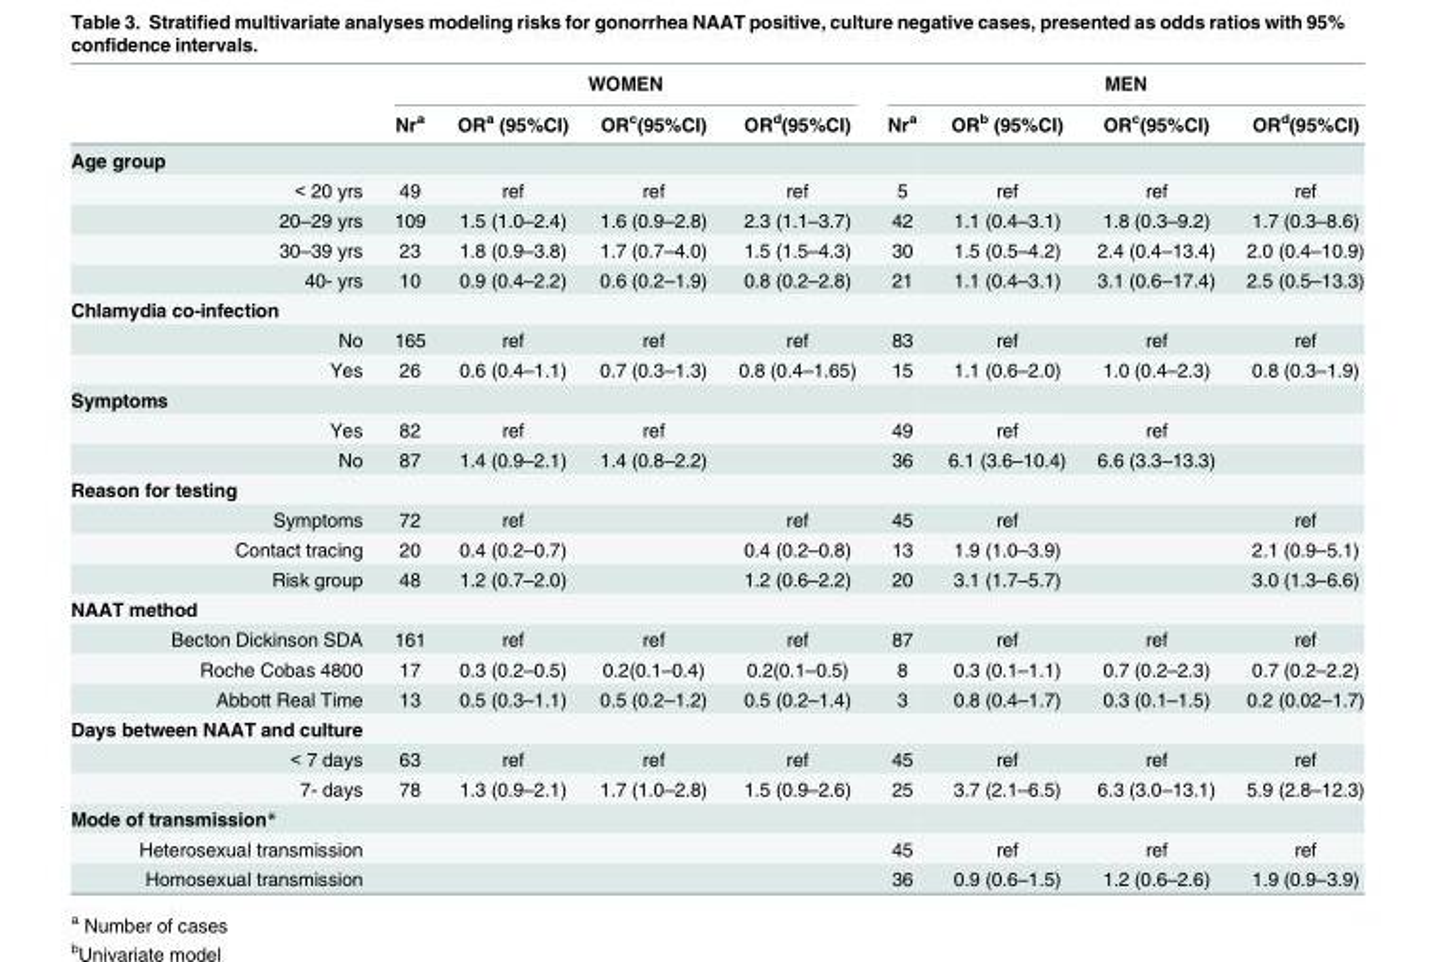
<table><thead><tr><td rowspan="2"></td><td colspan="4">WOMEN</td><td colspan="4">MEN</td></tr><tr><td>Nr<sup>a</sup></td><td>OR<sup>a</sup> (95%CI)</td><td>OR<sup>c</sup>(95%CI)</td><td>OR<sup>d</sup>(95%CI)</td><td>Nr<sup>a</sup></td><td>OR<sup>b</sup> (95%CI)</td><td>OR<sup>c</sup>(95%CI)</td><td>OR<sup>d</sup>(95%CI)</td></tr></thead><tbody><tr><td colspan="9">Age group</td></tr><tr><td>&lt; 20 yrs</td><td>49</td><td>ref</td><td>ref</td><td>ref</td><td>5</td><td>ref</td><td>ref</td><td>ref</td></tr><tr><td>20–29 yrs</td><td>109</td><td>1.5 (1.0–2.4)</td><td>1.6 (0.9–2.8)</td><td>2.3 (1.1–3.7)</td><td>42</td><td>1.1 (0.4–3.1)</td><td>1.8 (0.3–9.2)</td><td>1.7 (0.3–8.6)</td></tr><tr><td>30–39 yrs</td><td>23</td><td>1.8 (0.9–3.8)</td><td>1.7 (0.7–4.0)</td><td>1.5 (1.5–4.3)</td><td>30</td><td>1.5 (0.5–4.2)</td><td>2.4 (0.4–13.4)</td><td>2.0 (0.4–10.9)</td></tr><tr><td>40- yrs</td><td>10</td><td>0.9 (0.4–2.2)</td><td>0.6 (0.2–1.9)</td><td>0.8 (0.2–2.8)</td><td>21</td><td>1.1 (0.4–3.1)</td><td>3.1 (0.6–17.4)</td><td>2.5 (0.5–13.3)</td></tr><tr><td colspan="9">Chlamydia co-infection</td></tr><tr><td>No</td><td>165</td><td>ref</td><td>ref</td><td>ref</td><td>83</td><td>ref</td><td>ref</td><td>ref</td></tr><tr><td>Yes</td><td>26</td><td>0.6 (0.4–1.1)</td><td>0.7 (0.3–1.3)</td><td>0.8 (0.4–1.65)</td><td>15</td><td>1.1 (0.6–2.0)</td><td>1.0 (0.4–2.3)</td><td>0.8 (0.3–1.9)</td></tr><tr><td colspan="9">Symptoms</td></tr><tr><td>Yes</td><td>82</td><td>ref</td><td>ref</td><td></td><td>49</td><td>ref</td><td>ref</td><td></td></tr><tr><td>No</td><td>87</td><td>1.4 (0.9–2.1)</td><td>1.4 (0.8–2.2)</td><td></td><td>36</td><td>6.1 (3.6–10.4)</td><td>6.6 (3.3–13.3)</td><td></td></tr><tr><td colspan="9">Reason for testing</td></tr><tr><td>Symptoms</td><td>72</td><td>ref</td><td></td><td>ref</td><td>45</td><td>ref</td><td></td><td>ref</td></tr><tr><td>Contact tracing</td><td>20</td><td>0.4 (0.2–0.7)</td><td></td><td>0.4 (0.2–0.8)</td><td>13</td><td>1.9 (1.0–3.9)</td><td></td><td>2.1 (0.9–5.1)</td></tr><tr><td>Risk group</td><td>48</td><td>1.2 (0.7–2.0)</td><td></td><td>1.2 (0.6–2.2)</td><td>20</td><td>3.1 (1.7–5.7)</td><td></td><td>3.0 (1.3–6.6)</td></tr><tr><td colspan="9">NAAT method</td></tr><tr><td>Becton Dickinson SDA</td><td>161</td><td>ref</td><td>ref</td><td>ref</td><td>87</td><td>ref</td><td>ref</td><td>ref</td></tr><tr><td>Roche Cobas 4800</td><td>17</td><td>0.3 (0.2–0.5)</td><td>0.2(0.1–0.4)</td><td>0.2(0.1–0.5)</td><td>8</td><td>0.3 (0.1–1.1)</td><td>0.7 (0.2–2.3)</td><td>0.7 (0.2–2.2)</td></tr><tr><td>Abbott Real Time</td><td>13</td><td>0.5 (0.3–1.1)</td><td>0.5 (0.2–1.2)</td><td>0.5 (0.2–1.4)</td><td>3</td><td>0.8 (0.4–1.7)</td><td>0.3 (0.1–1.5)</td><td>0.2 (0.02–1.7)</td></tr><tr><td colspan="9">Days between NAAT and culture</td></tr><tr><td>&lt; 7 days</td><td>63</td><td>ref</td><td>ref</td><td>ref</td><td>45</td><td>ref</td><td>ref</td><td>ref</td></tr><tr><td>7- days</td><td>78</td><td>1.3 (0.9–2.1)</td><td>1.7 (1.0–2.8)</td><td>1.5 (0.9–2.6)</td><td>25</td><td>3.7 (2.1–6.5)</td><td>6.3 (3.0–13.1)</td><td>5.9 (2.8–12.3)</td></tr><tr><td colspan="9">Mode of transmission*</td></tr><tr><td>Heterosexual transmission</td><td></td><td></td><td></td><td></td><td>45</td><td>ref</td><td>ref</td><td>ref</td></tr><tr><td>Homosexual transmission</td><td></td><td></td><td></td><td></td><td>36</td><td>0.9 (0.6–1.5)</td><td>1.2 (0.6–2.6)</td><td>1.9 (0.9–3.9)</td></tr></tbody></table>